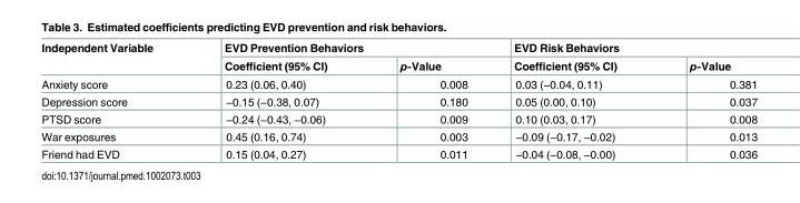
<table><thead><tr><td rowspan="2">Independent Variable</td><td colspan="2">EVD Prevention Behaviors</td><td colspan="2">EVD Risk Behaviors</td></tr><tr><td>Coefficient (95% CI)</td><td>p-Value</td><td>Coefficient (95% CI)</td><td>p-Value</td></tr></thead><tbody><tr><td>Anxiety score</td><td>0.23 (0.06, 0.40)</td><td>0.008</td><td>0.03 (−0.04, 0.11)</td><td>0.381</td></tr><tr><td>Depression score</td><td>−0.15 (−0.38, 0.07)</td><td>0.180</td><td>0.05 (0.00, 0.10)</td><td>0.037</td></tr><tr><td>PTSD score</td><td>−0.24 (−0.43, −0.06)</td><td>0.009</td><td>0.10 (0.03, 0.17)</td><td>0.008</td></tr><tr><td>War exposures</td><td>0.45 (0.16, 0.74)</td><td>0.003</td><td>−0.09 (−0.17, −0.02)</td><td>0.013</td></tr><tr><td>Friend had EVD</td><td>0.15 (0.04, 0.27)</td><td>0.011</td><td>−0.04 (−0.08, −0.00)</td><td>0.036</td></tr></tbody></table>